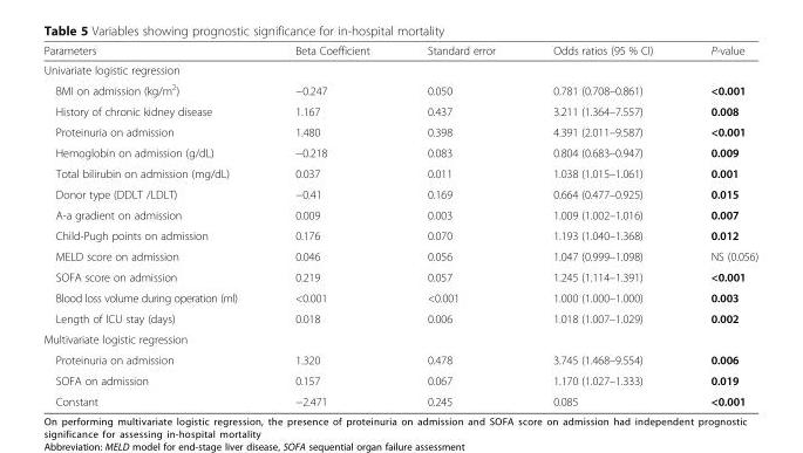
<table><thead><tr><td>Parameters</td><td>Beta Coefficient</td><td>Standard error</td><td>Odds ratios (95 % CI)</td><td>P-value</td></tr></thead><tbody><tr><td colspan="5">Univariate logistic regression</td></tr><tr><td>BMI on admission (kg/m<sup>2</sup>)</td><td>−0.247</td><td>0.050</td><td>0.781 (0.708–0.861)</td><td>&lt;0.001</td></tr><tr><td>History of chronic kidney disease</td><td>1.167</td><td>0.437</td><td>3.211 (1.364–7.557)</td><td>0.008</td></tr><tr><td>Proteinuria on admission</td><td>1.480</td><td>0.398</td><td>4.391 (2.011–9.587)</td><td>&lt;0.001</td></tr><tr><td>Hemoglobin on admission (g/dL)</td><td>−0.218</td><td>0.083</td><td>0.804 (0.683–0.947)</td><td>0.009</td></tr><tr><td>Total bilirubin on admission (mg/dL)</td><td>0.037</td><td>0.011</td><td>1.038 (1.015–1.061)</td><td>0.001</td></tr><tr><td>Donor type (DDLT /LDLT)</td><td>−0.41</td><td>0.169</td><td>0.664 (0.477–0.925)</td><td>0.015</td></tr><tr><td>A-a gradient on admission</td><td>0.009</td><td>0.003</td><td>1.009 (1.002–1.016)</td><td>0.007</td></tr><tr><td>Child-Pugh points on admission</td><td>0.176</td><td>0.070</td><td>1.193 (1.040–1.368)</td><td>0.012</td></tr><tr><td>MELD score on admission</td><td>0.046</td><td>0.056</td><td>1.047 (0.999–1.098)</td><td>NS (0.056)</td></tr><tr><td>SOFA score on admission</td><td>0.219</td><td>0.057</td><td>1.245 (1.114–1.391)</td><td>&lt;0.001</td></tr><tr><td>Blood loss volume during operation (ml)</td><td>&lt;0.001</td><td>&lt;0.001</td><td>1.000 (1.000–1.000)</td><td>0.003</td></tr><tr><td>Length of ICU stay (days)</td><td>0.018</td><td>0.006</td><td>1.018 (1.007–1.029)</td><td>0.002</td></tr><tr><td colspan="5">Multivariate logistic regression</td></tr><tr><td>Proteinuria on admission</td><td>1.320</td><td>0.478</td><td>3.745 (1.468–9.554)</td><td>0.006</td></tr><tr><td>SOFA on admission</td><td>0.157</td><td>0.067</td><td>1.170 (1.027–1.333)</td><td>0.019</td></tr><tr><td>Constant</td><td>−2.471</td><td>0.245</td><td>0.085</td><td>&lt;0.001</td></tr></tbody></table>